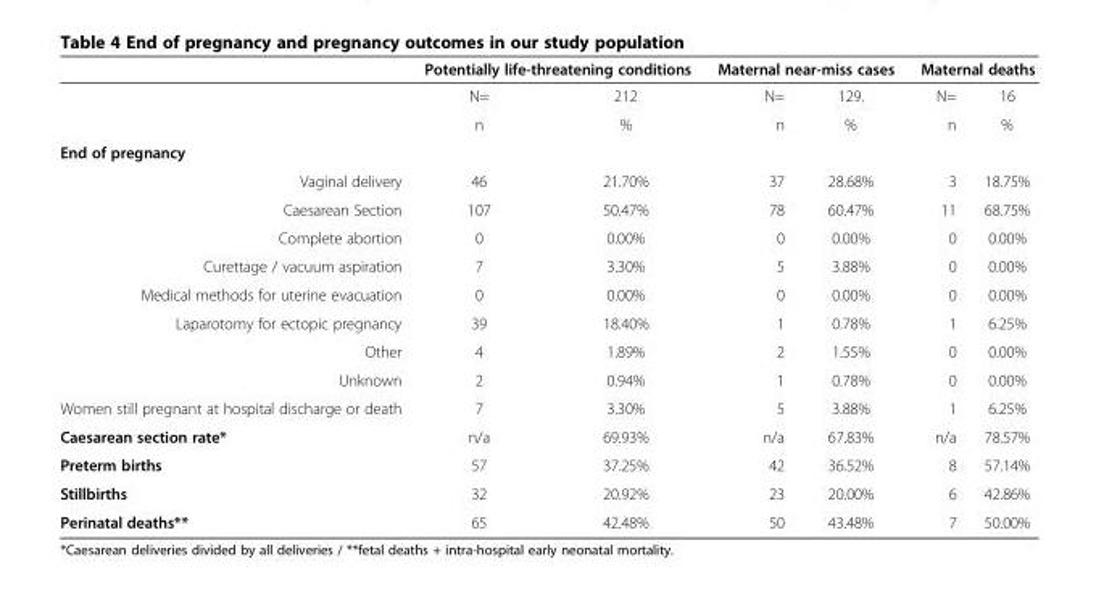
<table><thead><tr><td rowspan="2"></td><td colspan="2">Potentially life-threatening conditions</td><td colspan="2">Maternal near-miss cases</td><td colspan="2">Maternal deaths</td></tr><tr><td>N=</td><td>212</td><td>N=</td><td>129.</td><td>N=</td><td>16</td></tr></thead><tbody><tr><td></td><td>n</td><td>%</td><td>n</td><td>%</td><td>n</td><td>%</td></tr><tr><td colspan="7">End of pregnancy</td></tr><tr><td>Vaginal delivery</td><td>46</td><td>21.70%</td><td>37</td><td>28.68%</td><td>3</td><td>18.75%</td></tr><tr><td>Caesarean Section</td><td>107</td><td>50.47%</td><td>78</td><td>60.47%</td><td>11</td><td>68.75%</td></tr><tr><td>Complete abortion</td><td>0</td><td>0.00%</td><td>0</td><td>0.00%</td><td>0</td><td>0.00%</td></tr><tr><td>Curettage / vacuum aspiration</td><td>7</td><td>3.30%</td><td>5</td><td>3.88%</td><td>0</td><td>0.00%</td></tr><tr><td>Medical methods for uterine evacuation</td><td>0</td><td>0.00%</td><td>0</td><td>0.00%</td><td>0</td><td>0.00%</td></tr><tr><td>Laparotomy for ectopic pregnancy</td><td>39</td><td>18.40%</td><td>1</td><td>0.78%</td><td>1</td><td>6.25%</td></tr><tr><td>Other</td><td>4</td><td>1.89%</td><td>2</td><td>1.55%</td><td>0</td><td>0.00%</td></tr><tr><td>Unknown</td><td>2</td><td>0.94%</td><td>1</td><td>0.78%</td><td>0</td><td>0.00%</td></tr><tr><td>Women still pregnant at hospital discharge or death</td><td>7</td><td>3.30%</td><td>5</td><td>3.88%</td><td>1</td><td>6.25%</td></tr><tr><td>Caesarean section rate*</td><td>n/a</td><td>69.93%</td><td>n/a</td><td>67.83%</td><td>n/a</td><td>78.57%</td></tr><tr><td>Preterm births</td><td>57</td><td>37.25%</td><td>42</td><td>36.52%</td><td>8</td><td>57.14%</td></tr><tr><td>Stillbirths</td><td>32</td><td>20.92%</td><td>23</td><td>20.00%</td><td>6</td><td>42.86%</td></tr><tr><td>Perinatal deaths**</td><td>65</td><td>42.48%</td><td>50</td><td>43.48%</td><td>7</td><td>50.00%</td></tr></tbody></table>